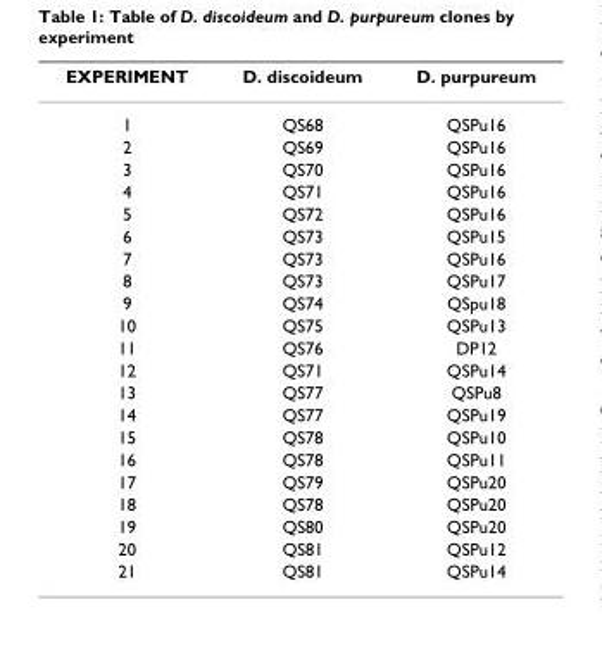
<table><thead><tr><td>EXPERIMENT</td><td>D. discoideum</td><td>D. purpureum</td></tr></thead><tbody><tr><td>1</td><td>QS68</td><td>QSPu16</td></tr><tr><td>2</td><td>QS69</td><td>QSPu16</td></tr><tr><td>3</td><td>QS70</td><td>QSPu16</td></tr><tr><td>4</td><td>QS71</td><td>QSPu16</td></tr><tr><td>5</td><td>QS72</td><td>QSPu16</td></tr><tr><td>6</td><td>QS73</td><td>QSPu15</td></tr><tr><td>7</td><td>QS73</td><td>QSPu16</td></tr><tr><td>8</td><td>QS73</td><td>QSPu17</td></tr><tr><td>9</td><td>QS74</td><td>QSpu18</td></tr><tr><td>10</td><td>QS75</td><td>QSPu13</td></tr><tr><td>11</td><td>QS76</td><td>DP12</td></tr><tr><td>12</td><td>QS71</td><td>QSPu14</td></tr><tr><td>13</td><td>QS77</td><td>QSPu8</td></tr><tr><td>14</td><td>QS77</td><td>QSPu19</td></tr><tr><td>15</td><td>QS78</td><td>QSPu10</td></tr><tr><td>16</td><td>QS78</td><td>QSPu11</td></tr><tr><td>17</td><td>QS79</td><td>QSPu20</td></tr><tr><td>18</td><td>QS78</td><td>QSPu20</td></tr><tr><td>19</td><td>QS80</td><td>QSPu20</td></tr><tr><td>20</td><td>QS81</td><td>QSPu12</td></tr><tr><td>21</td><td>QS81</td><td>QSPu14</td></tr></tbody></table>